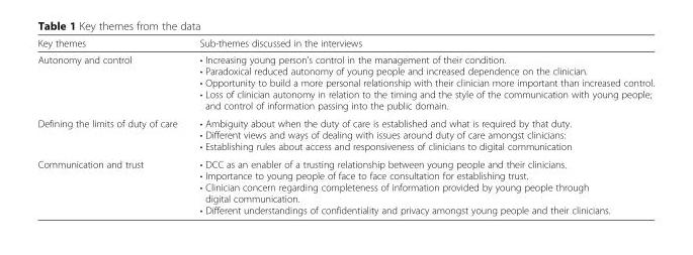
<table><thead><tr><td>Key themes</td><td>Sub-themes discussed in the interviews</td></tr></thead><tbody><tr><td>Autonomy and control</td><td>• Increasing young person’s control in the management of their condition. • Paradoxical reduced autonomy of young people and increased dependence on the clinician. • Opportunity to build a more personal relationship with their clinician more important than increased control. • Loss of clinician autonomy in relation to the timing and the style of the communication with young people; and control of information passing into the public domain.</td></tr><tr><td>Defining the limits of duty of care</td><td>• Ambiguity about when the duty of care is established and what is required by that duty. • Different views and ways of dealing with issues around duty of care amongst clinicians: • Establishing rules about access and responsiveness of clinicians to digital communication</td></tr><tr><td>Communication and trust</td><td>• DCC as an enabler of a trusting relationship between young people and their clinicians. • Importance to young people of face to face consultation for establishing trust. • Clinician concern regarding completeness of information provided by young people through digital communication. • Different understandings of confidentiality and privacy amongst young people and their clinicians.</td></tr></tbody></table>